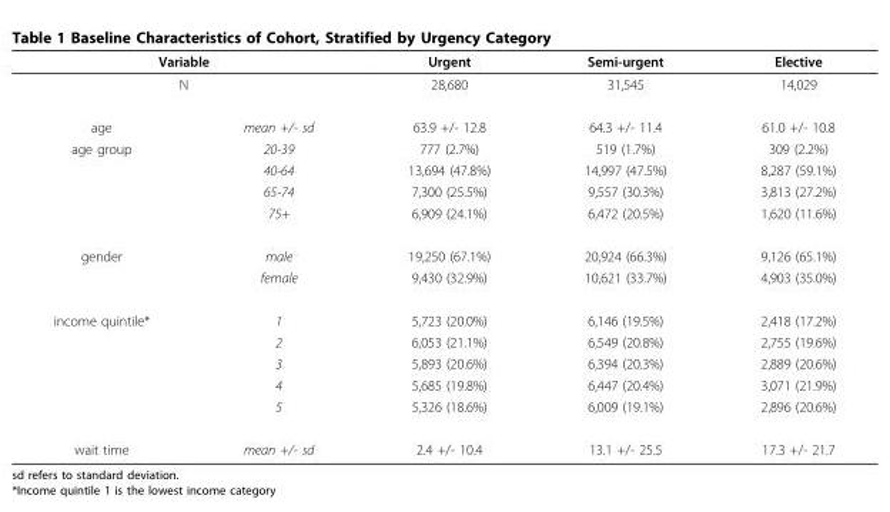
<table><thead><tr><td rowspan="2" colspan="2">Variable N</td><td rowspan="3">Urgent 28,680 63.9 +/- 12.8</td><td rowspan="3">Semi-urgent 31,545 64.3 +/- 11.4</td><td rowspan="3">Elective 14,029 61.0 +/- 10.8</td></tr><tr></tr><tr><td>age</td><td>mean +/- sd</td></tr></thead><tbody><tr><td rowspan="4">age group</td><td>20-39</td><td>777 (2.7%)</td><td>519 (1.7%)</td><td>309 (2.2%)</td></tr><tr><td>40-64</td><td>13,694 (47.8%)</td><td>14,997 (47.5%)</td><td>8,287 (59.1%)</td></tr><tr><td>65-74</td><td>7,300 (25.5%)</td><td>9,557 (30.3%)</td><td>3,813 (27.2%)</td></tr><tr><td>75+</td><td>6,909 (24.1%)</td><td>6,472 (20.5%)</td><td>1,620 (11.6%)</td></tr><tr><td rowspan="2">gender</td><td>male</td><td>19,250 (67.1%)</td><td>20,924 (66.3%)</td><td>9,126 (65.1%)</td></tr><tr><td>female</td><td>9,430 (32.9%)</td><td>10,621 (33.7%)</td><td>4,903 (35.0%)</td></tr><tr><td rowspan="5">income quintile*</td><td>1</td><td>5,723 (20.0%)</td><td>6,146 (19.5%)</td><td>2,418 (17.2%)</td></tr><tr><td>2</td><td>6,053 (21.1%)</td><td>6,549 (20.8%)</td><td>2,755 (19.6%)</td></tr><tr><td>3</td><td>5,893 (20.6%)</td><td>6,394 (20.3%)</td><td>2,889 (20.6%)</td></tr><tr><td>4</td><td>5,685 (19.8%)</td><td>6,447 (20.4%)</td><td>3,071 (21.9%)</td></tr><tr><td>5</td><td>5,326 (18.6%)</td><td>6,009 (19.1%)</td><td>2,896 (20.6%)</td></tr><tr><td>wait time</td><td>mean +/- sd</td><td>2.4 +/- 10.4</td><td>13.1 +/- 25.5</td><td>17.3 +/- 21.7</td></tr></tbody></table>